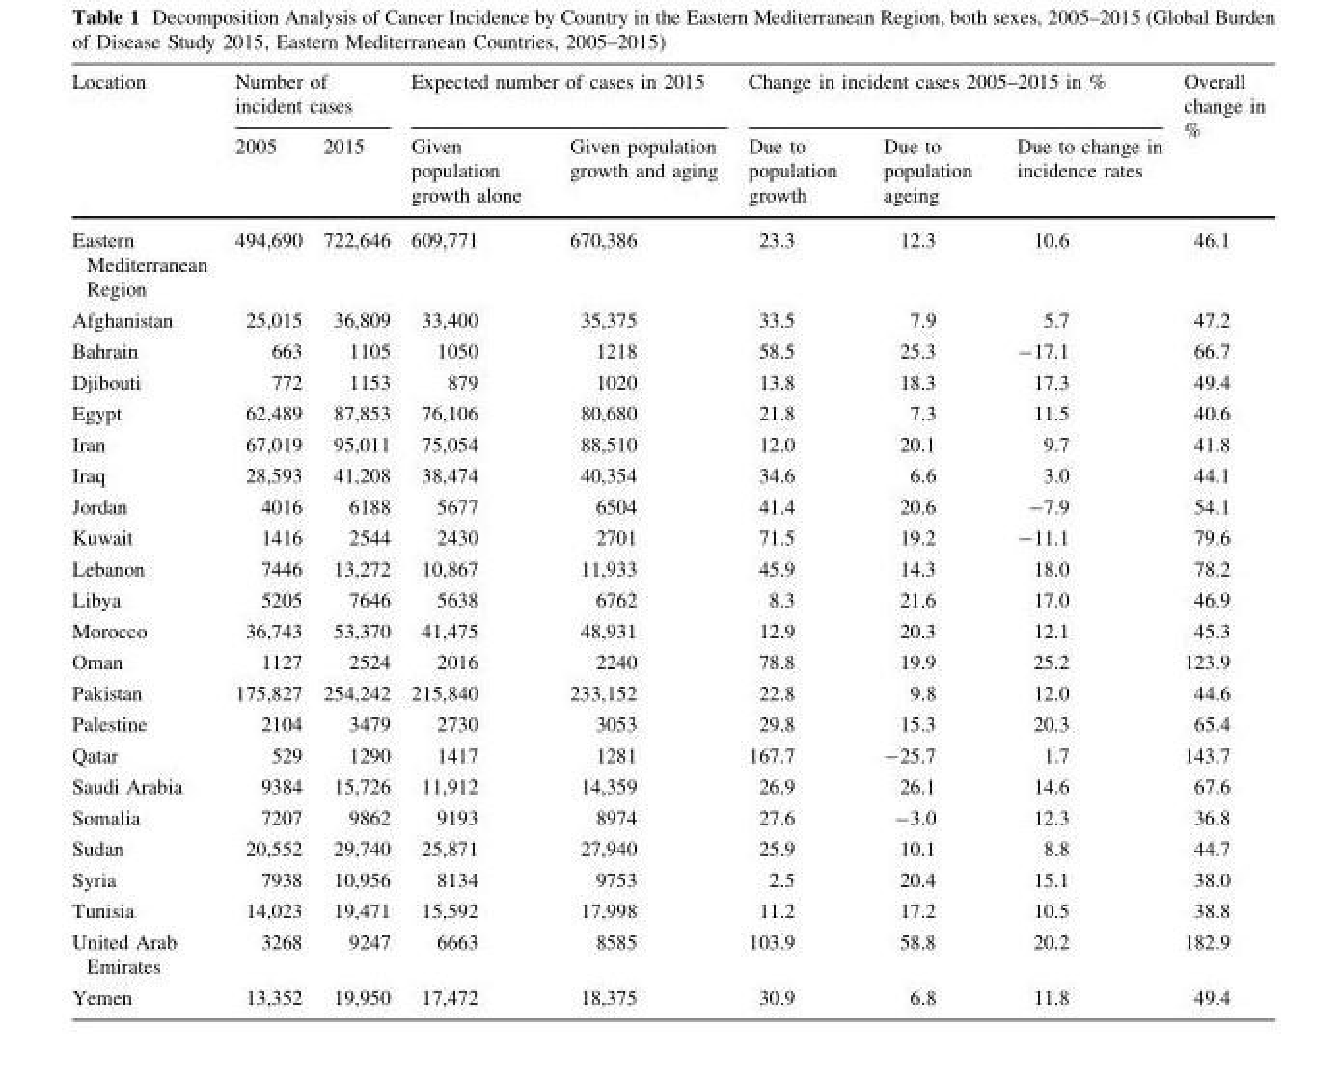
<table><thead><tr><td rowspan="2">Location</td><td colspan="2">Number of incident cases</td><td colspan="2">Expected number of cases in 2015</td><td colspan="3">Change in incident cases 2005–2015 in %</td><td rowspan="2">Overall change in %</td></tr><tr><td>2005</td><td>2015</td><td>Given population growth alone</td><td>Given population growth and aging</td><td>Due to population growth</td><td>Due to population ageing</td><td>Due to change in incidence rates</td></tr></thead><tbody><tr><td>Eastern Mediterranean Region</td><td>494,690</td><td>722,646</td><td>609,771</td><td>670,386</td><td>23.3</td><td>12.3</td><td>10.6</td><td>46.1</td></tr><tr><td>Afghanistan</td><td>25,015</td><td>36,809</td><td>33,400</td><td>35,375</td><td>33.5</td><td>7.9</td><td>5.7</td><td>47.2</td></tr><tr><td>Bahrain</td><td>663</td><td>1105</td><td>1050</td><td>1218</td><td>58.5</td><td>25.3</td><td>-17.1</td><td>66.7</td></tr><tr><td>Djibouti</td><td>772</td><td>1153</td><td>879</td><td>1020</td><td>13.8</td><td>18.3</td><td>17.3</td><td>49.4</td></tr><tr><td>Egypt</td><td>62,489</td><td>87,853</td><td>76,106</td><td>80,680</td><td>21.8</td><td>7.3</td><td>11.5</td><td>40.6</td></tr><tr><td>Iran</td><td>67,019</td><td>95,011</td><td>75,054</td><td>88,510</td><td>12.0</td><td>20.1</td><td>9.7</td><td>41.8</td></tr><tr><td>Iraq</td><td>28,593</td><td>41,208</td><td>38,474</td><td>40,354</td><td>34.6</td><td>6.6</td><td>3.0</td><td>44.1</td></tr><tr><td>Jordan</td><td>4016</td><td>6188</td><td>5677</td><td>6504</td><td>41.4</td><td>20.6</td><td>-7.9</td><td>54.1</td></tr><tr><td>Kuwait</td><td>1416</td><td>2544</td><td>2430</td><td>2701</td><td>71.5</td><td>19.2</td><td>-11.1</td><td>79.6</td></tr><tr><td>Lebanon</td><td>7446</td><td>13,272</td><td>10,867</td><td>11,933</td><td>45.9</td><td>14.3</td><td>18.0</td><td>78.2</td></tr><tr><td>Libya</td><td>5205</td><td>7646</td><td>5638</td><td>6762</td><td>8.3</td><td>21.6</td><td>17.0</td><td>46.9</td></tr><tr><td>Morocco</td><td>36,743</td><td>53,370</td><td>41,475</td><td>48,931</td><td>12.9</td><td>20.3</td><td>12.1</td><td>45.3</td></tr><tr><td>Oman</td><td>1127</td><td>2524</td><td>2016</td><td>2240</td><td>78.8</td><td>19.9</td><td>25.2</td><td>123.9</td></tr><tr><td>Pakistan</td><td>175,827</td><td>254,242</td><td>215,840</td><td>233,152</td><td>22.8</td><td>9.8</td><td>12.0</td><td>44.6</td></tr><tr><td>Palestine</td><td>2104</td><td>3479</td><td>2730</td><td>3053</td><td>29.8</td><td>15.3</td><td>20.3</td><td>65.4</td></tr><tr><td>Qatar</td><td>529</td><td>1290</td><td>1417</td><td>1281</td><td>167.7</td><td>-25.7</td><td>1.7</td><td>143.7</td></tr><tr><td>Saudi Arabia</td><td>9384</td><td>15,726</td><td>11,912</td><td>14,359</td><td>26.9</td><td>26.1</td><td>14.6</td><td>67.6</td></tr><tr><td>Somalia</td><td>7207</td><td>9862</td><td>9193</td><td>8974</td><td>27.6</td><td>-3.0</td><td>12.3</td><td>36.8</td></tr><tr><td>Sudan</td><td>20,552</td><td>29,740</td><td>25,871</td><td>27,940</td><td>25.9</td><td>10.1</td><td>8.8</td><td>44.7</td></tr><tr><td>Syria</td><td>7938</td><td>10,956</td><td>8134</td><td>9753</td><td>2.5</td><td>20.4</td><td>15.1</td><td>38.0</td></tr><tr><td>Tunisia</td><td>14,023</td><td>19,471</td><td>15,592</td><td>17,998</td><td>11.2</td><td>17.2</td><td>10.5</td><td>38.8</td></tr><tr><td>United Arab Emirates</td><td>3268</td><td>9247</td><td>6663</td><td>8585</td><td>103.9</td><td>58.8</td><td>20.2</td><td>182.9</td></tr><tr><td>Yemen</td><td>13,352</td><td>19,950</td><td>17,472</td><td>18,375</td><td>30.9</td><td>6.8</td><td>11.8</td><td>49.4</td></tr></tbody></table>